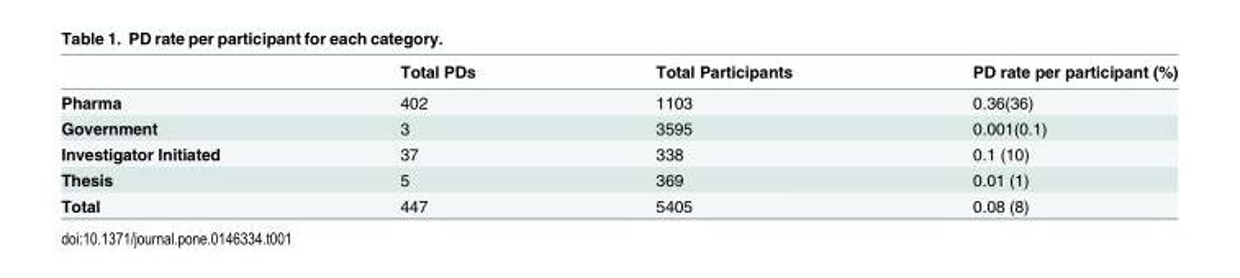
<table><thead><tr><td></td><td>Total PDs</td><td>Total Participants</td><td>PD rate per participant (%)</td></tr></thead><tbody><tr><td>Pharma</td><td>402</td><td>1103</td><td>0.36(36)</td></tr><tr><td>Government</td><td>3</td><td>3595</td><td>0.001(0.1)</td></tr><tr><td>Investigator Initiated</td><td>37</td><td>338</td><td>0.1 (10)</td></tr><tr><td>Thesis</td><td>5</td><td>369</td><td>0.01 (1)</td></tr><tr><td>Total</td><td>447</td><td>5405</td><td>0.08 (8)</td></tr></tbody></table>